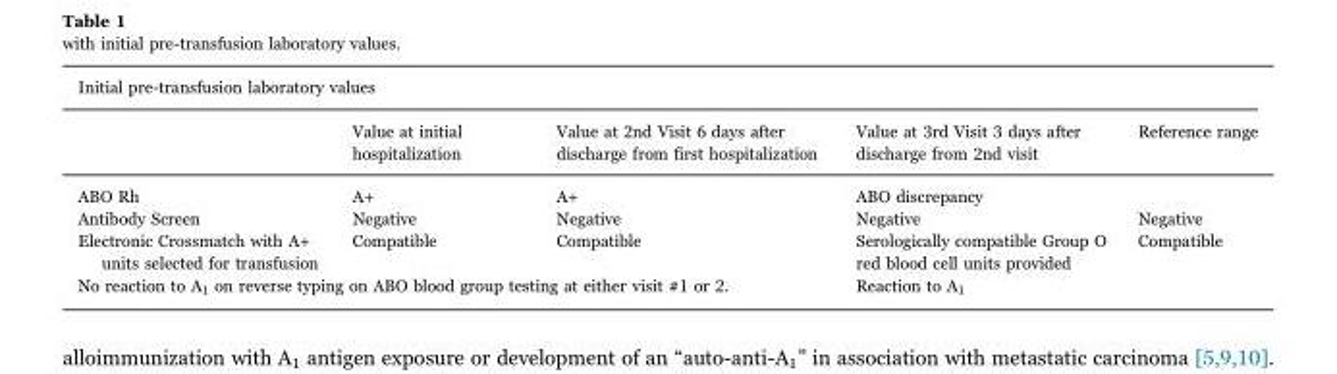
<table><thead><tr><td colspan="5">Initial pre-transfusion laboratory values</td></tr><tr><td></td><td>Value at initial hospitalization</td><td>Value at 2nd Visit 6 days after discharge from first hospitalization</td><td>Value at 3rd Visit 3 days after discharge from 2nd visit</td><td>Reference range</td></tr></thead><tbody><tr><td>ABO Rh</td><td>A+</td><td>A+</td><td>ABO discrepancy</td><td></td></tr><tr><td>Antibody Screen</td><td>Negative</td><td>Negative</td><td>Negative</td><td>Negative</td></tr><tr><td>Electronic Crossmatch with A+ units selected for transfusion</td><td>Compatible</td><td>Compatible</td><td>Serologically compatible Group O red blood cell units provided</td><td>Compatible</td></tr><tr><td colspan="3">No reaction to A<sub>1</sub> on reverse typing on ABO blood group testing at either visit #1 or 2.</td><td>Reaction to A<sub>1</sub></td><td></td></tr></tbody></table>